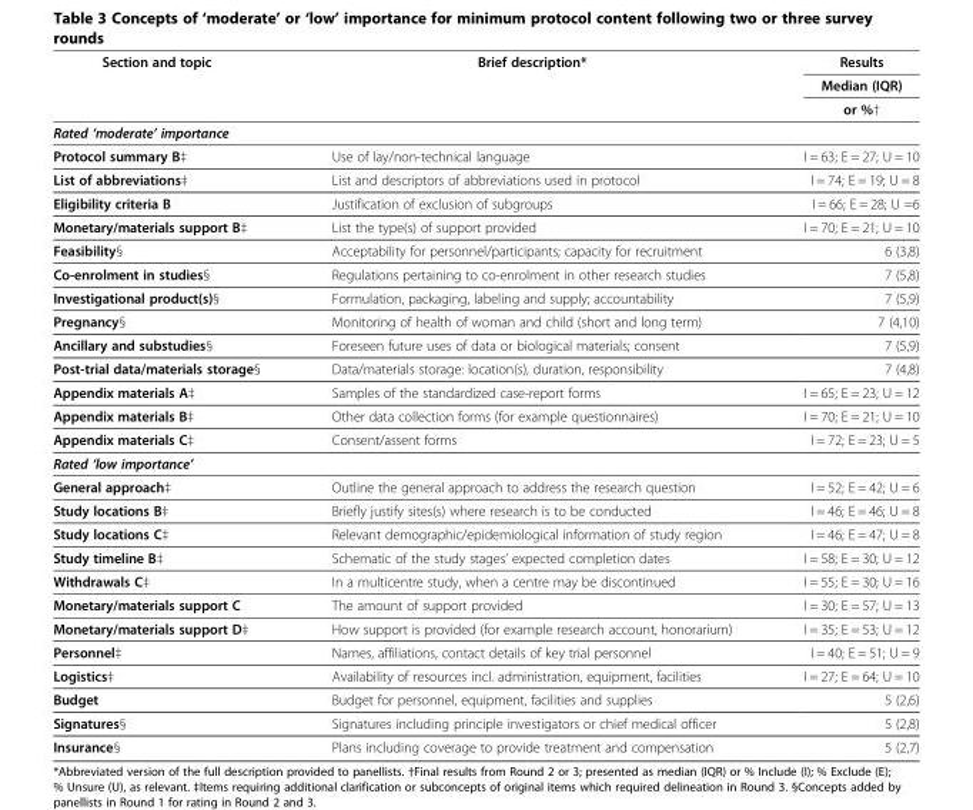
<table><thead><tr><td rowspan="3">Section and topic</td><td rowspan="3">Brief description*</td><td rowspan="3">Results Median (IQR) or %†</td></tr><tr></tr><tr></tr></thead><tbody><tr><td colspan="3">Rated ‘moderate’ importance</td></tr><tr><td>Protocol summary B‡</td><td>Use of lay/non-technical language</td><td>I = 63; E = 27; U = 10</td></tr><tr><td>List of abbreviations‡</td><td>List and descriptors of abbreviations used in protocol</td><td>I = 74; E = 19; U = 8</td></tr><tr><td>Eligibility criteria B</td><td>Justification of exclusion of subgroups</td><td>I = 66; E = 28; U =6</td></tr><tr><td>Monetary/materials support B‡</td><td>List the type(s) of support provided</td><td>I = 70; E = 21; U = 10</td></tr><tr><td>Feasibility§</td><td>Acceptability for personnel/participants; capacity for recruitment</td><td>6 (3,8)</td></tr><tr><td>Co-enrolment in studies§</td><td>Regulations pertaining to co-enrolment in other research studies</td><td>7 (5,8)</td></tr><tr><td>Investigational product(s)§</td><td>Formulation, packaging, labeling and supply; accountability</td><td>7 (5,9)</td></tr><tr><td>Pregnancy§</td><td>Monitoring of health of woman and child (short and long term)</td><td>7 (4,10)</td></tr><tr><td>Ancillary and substudies§</td><td>Foreseen future uses of data or biological materials; consent</td><td>7 (5,9)</td></tr><tr><td>Post-trial data/materials storage§</td><td>Data/materials storage: location(s), duration, responsibility</td><td>7 (4,8)</td></tr><tr><td>Appendix materials A‡</td><td>Samples of the standardized case-report forms</td><td>I = 65; E = 23; U = 12</td></tr><tr><td>Appendix materials B‡</td><td>Other data collection forms (for example questionnaires)</td><td>I = 70; E = 21; U = 10</td></tr><tr><td>Appendix materials C‡</td><td>Consent/assent forms</td><td>I = 72; E = 23; U = 5</td></tr><tr><td colspan="3">Rated ‘low importance’</td></tr><tr><td>General approach‡</td><td>Outline the general approach to address the research question</td><td>I = 52; E = 42; U = 6</td></tr><tr><td>Study locations B‡</td><td>Briefly justify sites(s) where research is to be conducted</td><td>I = 46; E = 46; U = 8</td></tr><tr><td>Study locations C‡</td><td>Relevant demographic/epidemiological information of study region</td><td>I = 46; E = 47; U = 8</td></tr><tr><td>Study timeline B‡</td><td>Schematic of the study stages’ expected completion dates</td><td>I = 58; E = 30; U = 12</td></tr><tr><td>Withdrawals C‡</td><td>In a multicentre study, when a centre may be discontinued</td><td>I = 55; E = 30; U = 16</td></tr><tr><td>Monetary/materials support C</td><td>The amount of support provided</td><td>I = 30; E = 57; U = 13</td></tr><tr><td>Monetary/materials support D‡</td><td>How support is provided (for example research account, honorarium)</td><td>I = 35; E = 53; U = 12</td></tr><tr><td>Personnel‡</td><td>Names, affiliations, contact details of key trial personnel</td><td>I = 40; E = 51; U = 9</td></tr><tr><td>Logistics‡</td><td>Availability of resources incl. administration, equipment, facilities</td><td>I = 27; E = 64; U = 10</td></tr><tr><td>Budget</td><td>Budget for personnel, equipment, facilities and supplies</td><td>5 (2,6)</td></tr><tr><td>Signatures§</td><td>Signatures including principle investigators or chief medical officer</td><td>5 (2,8)</td></tr><tr><td>Insurance§</td><td>Plans including coverage to provide treatment and compensation</td><td>5 (2,7)</td></tr></tbody></table>